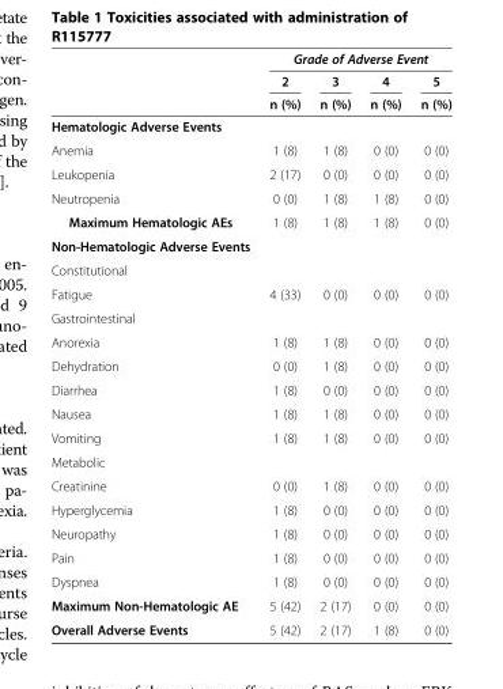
<table><thead><tr><td rowspan="3"></td><td colspan="4">Grade of Adverse Event</td></tr><tr><td rowspan="2">2 n (%)</td><td rowspan="2">3 n (%)</td><td rowspan="2">4 n (%)</td><td rowspan="2">5 n (%)</td></tr><tr></tr></thead><tbody><tr><td colspan="5">Hematologic Adverse Events</td></tr><tr><td>Anemia</td><td>1 (8)</td><td>1 (8)</td><td>0 (0)</td><td>0 (0)</td></tr><tr><td>Leukopenia</td><td>2 (17)</td><td>0 (0)</td><td>0 (0)</td><td>0 (0)</td></tr><tr><td>Neutropenia</td><td>0 (0)</td><td>1 (8)</td><td>1 (8)</td><td>0 (0)</td></tr><tr><td>Maximum Hematologic AEs</td><td>1 (8)</td><td>1 (8)</td><td>1 (8)</td><td>0 (0)</td></tr><tr><td colspan="5">Non-Hematologic Adverse Events</td></tr><tr><td colspan="5">Constitutional</td></tr><tr><td>Fatigue</td><td>4 (33)</td><td>0 (0)</td><td>0 (0)</td><td>0 (0)</td></tr><tr><td colspan="5">Gastrointestinal</td></tr><tr><td>Anorexia</td><td>1 (8)</td><td>1 (8)</td><td>0 (0)</td><td>0 (0)</td></tr><tr><td>Dehydration</td><td>0 (0)</td><td>1 (8)</td><td>0 (0)</td><td>0 (0)</td></tr><tr><td>Diarrhea</td><td>1 (8)</td><td>0 (0)</td><td>0 (0)</td><td>0 (0)</td></tr><tr><td>Nausea</td><td>1 (8)</td><td>1 (8)</td><td>0 (0)</td><td>0 (0)</td></tr><tr><td>Vomiting</td><td>1 (8)</td><td>1 (8)</td><td>0 (0)</td><td>0 (0)</td></tr><tr><td colspan="5">Metabolic</td></tr><tr><td>Creatinine</td><td>0 (0)</td><td>1 (8)</td><td>0 (0)</td><td>0 (0)</td></tr><tr><td>Hyperglycemia</td><td>1 (8)</td><td>0 (0)</td><td>0 (0)</td><td>0 (0)</td></tr><tr><td>Neuropathy</td><td>1 (8)</td><td>0 (0)</td><td>0 (0)</td><td>0 (0)</td></tr><tr><td>Pain</td><td>1 (8)</td><td>0 (0)</td><td>0 (0)</td><td>0 (0)</td></tr><tr><td>Dyspnea</td><td>1 (8)</td><td>0 (0)</td><td>0 (0)</td><td>0 (0)</td></tr><tr><td>Maximum Non-Hematologic AE</td><td>5 (42)</td><td>2 (17)</td><td>0 (0)</td><td>0 (0)</td></tr><tr><td>Overall Adverse Events</td><td>5 (42)</td><td>2 (17)</td><td>1 (8)</td><td>0 (0)</td></tr></tbody></table>